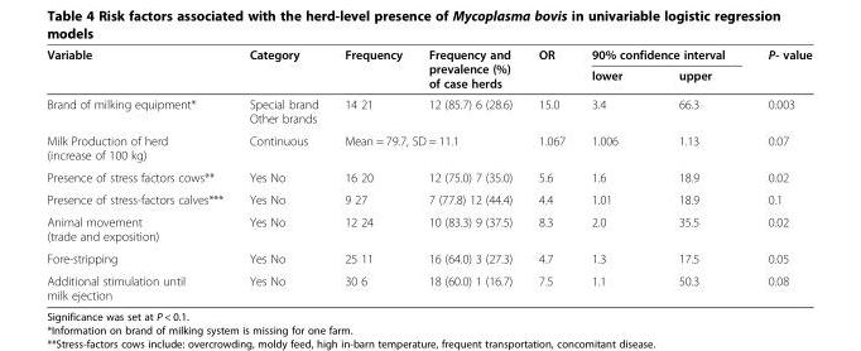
<table><thead><tr><td rowspan="2">Variable</td><td rowspan="2">Category</td><td rowspan="2">Frequency</td><td rowspan="2">Frequency and prevalence (%) of case herds</td><td rowspan="2">OR</td><td colspan="2">90% confidence interval</td><td rowspan="2">P- value</td></tr><tr><td>lower</td><td>upper</td></tr></thead><tbody><tr><td>Brand of milking equipment*</td><td>Special brand Other brands</td><td>14 21</td><td>12 (85.7) 6 (28.6)</td><td>15.0</td><td>3.4</td><td>66.3</td><td>0.003</td></tr><tr><td>Milk Production of herd (increase of 100 kg)</td><td>Continuous</td><td colspan="2">Mean = 79.7, SD = 11.1</td><td>1.067</td><td>1.006</td><td>1.13</td><td>0.07</td></tr><tr><td>Presence of stress factors cows**</td><td>Yes No</td><td>16 20</td><td>12 (75.0) 7 (35.0)</td><td>5.6</td><td>1.6</td><td>18.9</td><td>0.02</td></tr><tr><td>Presence of stress-factors calves***</td><td>Yes No</td><td>9 27</td><td>7 (77.8) 12 (44.4)</td><td>4.4</td><td>1.01</td><td>18.9</td><td>0.1</td></tr><tr><td>Animal movement (trade and exposition)</td><td>Yes No</td><td>12 24</td><td>10 (83.3) 9 (37.5)</td><td>8.3</td><td>2.0</td><td>35.5</td><td>0.02</td></tr><tr><td>Fore-stripping</td><td>Yes No</td><td>25 11</td><td>16 (64.0) 3 (27.3)</td><td>4.7</td><td>1.3</td><td>17.5</td><td>0.05</td></tr><tr><td>Additional stimulation until milk ejection</td><td>Yes No</td><td>30 6</td><td>18 (60.0) 1 (16.7)</td><td>7.5</td><td>1.1</td><td>50.3</td><td>0.08</td></tr></tbody></table>